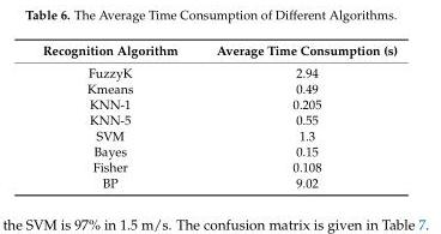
<table><thead><tr><td>Recognition Algorithm</td><td>Average Time Consumption (s)</td></tr></thead><tbody><tr><td>FuzzyK</td><td>2.94</td></tr><tr><td>Kmeans</td><td>0.49</td></tr><tr><td>KNN-1</td><td>0.205</td></tr><tr><td>KNN-5</td><td>0.55</td></tr><tr><td>SVM</td><td>1.3</td></tr><tr><td>Bayes</td><td>0.15</td></tr><tr><td>Fisher</td><td>0.108</td></tr><tr><td>BP</td><td>9.02</td></tr></tbody></table>